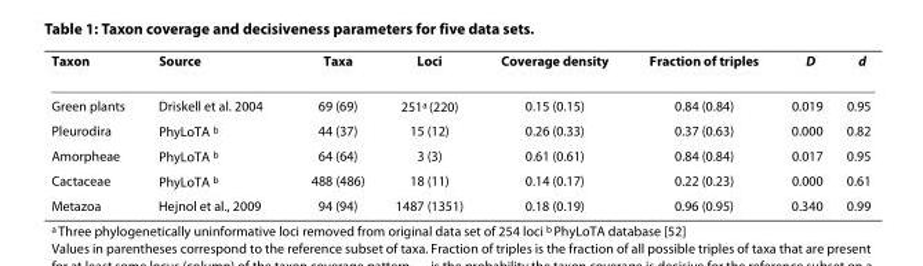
<table><thead><tr><td>Taxon</td><td>Source</td><td>Taxa</td><td>Loci</td><td>Coverage density</td><td>Fraction of triples</td><td>∏<sub>D</sub></td><td>∏<sub>d</sub></td></tr></thead><tbody><tr><td>Green plants</td><td>Driskell et al. 2004</td><td>69 (69)</td><td>251<sup>a</sup> (220)</td><td>0.15 (0.15)</td><td>0.84 (0.84)</td><td>0.019</td><td>0.95</td></tr><tr><td>Pleurodira</td><td>PhyLoTA <sup>b</sup></td><td>44 (37)</td><td>15 (12)</td><td>0.26 (0.33)</td><td>0.37 (0.63)</td><td>0.000</td><td>0.82</td></tr><tr><td>Amorpheae</td><td>PhyLoTA <sup>b</sup></td><td>64 (64)</td><td>3 (3)</td><td>0.61 (0.61)</td><td>0.84 (0.84)</td><td>0.017</td><td>0.95</td></tr><tr><td>Cactaceae</td><td>PhyLoTA <sup>b</sup></td><td>488 (486)</td><td>18 (11)</td><td>0.14 (0.17)</td><td>0.22 (0.23)</td><td>0.000</td><td>0.61</td></tr><tr><td>Metazoa</td><td>Hejnol et al., 2009</td><td>94 (94)</td><td>1487 (1351)</td><td>0.18 (0.19)</td><td>0.96 (0.95)</td><td>0.340</td><td>0.99</td></tr></tbody></table>